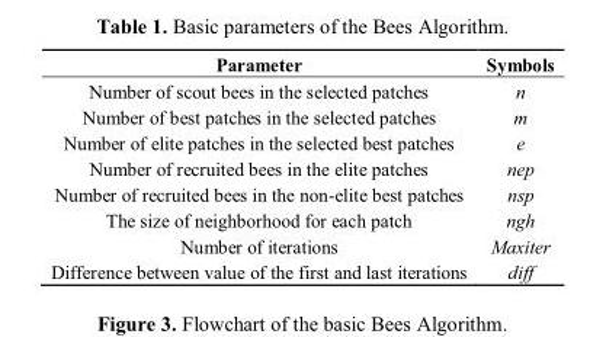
<table><thead><tr><td>Parameter</td><td>Symbols</td></tr></thead><tbody><tr><td>Number of scout bees in the selected patches</td><td>n</td></tr><tr><td>Number of best patches in the selected patches</td><td>m</td></tr><tr><td>Number of elite patches in the selected best patches</td><td>e</td></tr><tr><td>Number of recruited bees in the elite patches</td><td>nep</td></tr><tr><td>Number of recruited bees in the non-elite best patches</td><td>nsp</td></tr><tr><td>The size of neighborhood for each patch</td><td>ngh</td></tr><tr><td>Number of iterations</td><td>Maxiter</td></tr><tr><td>Difference between value of the first and last iterations</td><td>diff</td></tr></tbody></table>